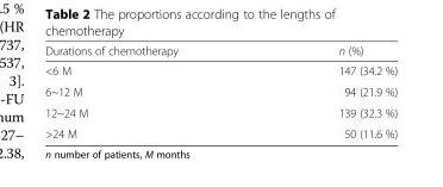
<table><thead><tr><td>Durations of chemotherapy</td><td>n (%)</td></tr></thead><tbody><tr><td>&lt;6 M</td><td>147 (34.2 %)</td></tr><tr><td>6~12 M</td><td>94 (21.9 %)</td></tr><tr><td>12~24 M</td><td>139 (32.3 %)</td></tr><tr><td>&gt;24 M</td><td>50 (11.6 %)</td></tr></tbody></table>